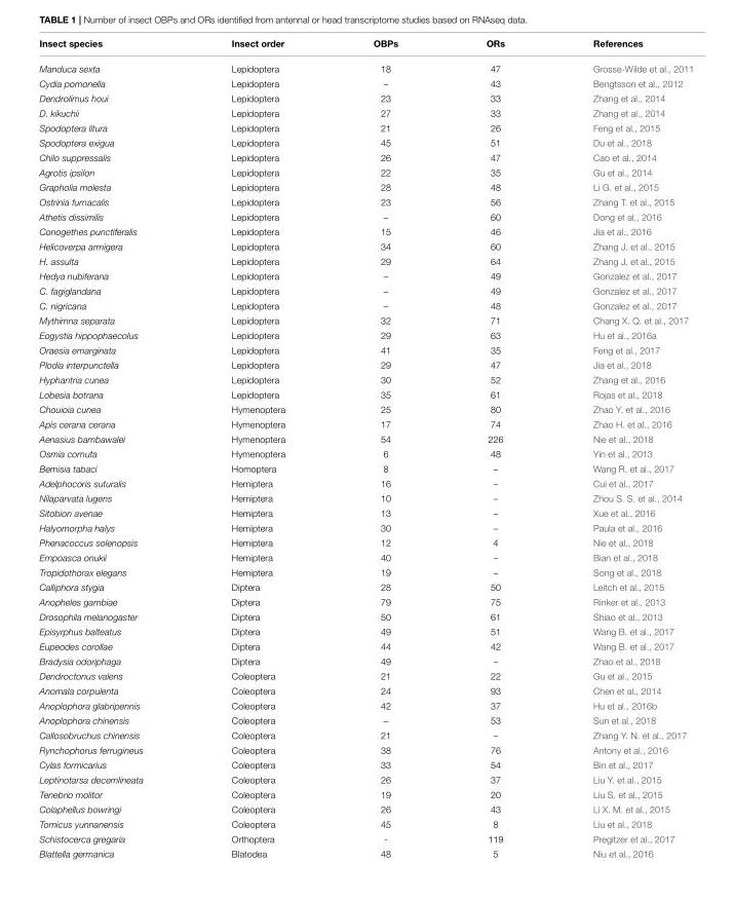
<table><thead><tr><td>Insect species</td><td>Insect order</td><td>OBPs</td><td>ORs</td><td>References</td></tr></thead><tbody><tr><td>Manduca sexta</td><td>Lepidoptera</td><td>18</td><td>47</td><td>Grosse-Wilde et al., 2011</td></tr><tr><td>Cydia pomonella</td><td>Lepidoptera</td><td>–</td><td>43</td><td>Bengtsson et al., 2012</td></tr><tr><td>Dendrolimus houi</td><td>Lepidoptera</td><td>23</td><td>33</td><td>Zhang et al., 2014</td></tr><tr><td>D. kikuchii</td><td>Lepidoptera</td><td>27</td><td>33</td><td>Zhang et al., 2014</td></tr><tr><td>Spodoptera litura</td><td>Lepidoptera</td><td>21</td><td>26</td><td>Feng et al., 2015</td></tr><tr><td>Spodoptera exigua</td><td>Lepidoptera</td><td>45</td><td>51</td><td>Du et al., 2018</td></tr><tr><td>Chilo suppressalis</td><td>Lepidoptera</td><td>26</td><td>47</td><td>Cao et al., 2014</td></tr><tr><td>Agrotis ipsilon</td><td>Lepidoptera</td><td>22</td><td>35</td><td>Gu et al., 2014</td></tr><tr><td>Grapholia molesta</td><td>Lepidoptera</td><td>28</td><td>48</td><td>Li G. et al., 2015</td></tr><tr><td>Ostrinia furnacalis</td><td>Lepidoptera</td><td>23</td><td>56</td><td>Zhang T. et al., 2015</td></tr><tr><td>Athetis dissimilis</td><td>Lepidoptera</td><td>–</td><td>60</td><td>Dong et al., 2016</td></tr><tr><td>Conogethes punctiferalis</td><td>Lepidoptera</td><td>15</td><td>46</td><td>Jia et al., 2016</td></tr><tr><td>Helicoverpa armigera</td><td>Lepidoptera</td><td>34</td><td>60</td><td>Zhang J. et al., 2015</td></tr><tr><td>H. assulta</td><td>Lepidoptera</td><td>29</td><td>64</td><td>Zhang J. et al., 2015</td></tr><tr><td>Hedya nubiferana</td><td>Lepidoptera</td><td>–</td><td>49</td><td>Gonzalez et al., 2017</td></tr><tr><td>C. fagiglandana</td><td>Lepidoptera</td><td>–</td><td>49</td><td>Gonzalez et al., 2017</td></tr><tr><td>C. nigricana</td><td>Lepidoptera</td><td>–</td><td>48</td><td>Gonzalez et al., 2017</td></tr><tr><td>Mythimna separata</td><td>Lepidoptera</td><td>32</td><td>71</td><td>Chang X. Q. et al., 2017</td></tr><tr><td>Eogystia hippophaecolus</td><td>Lepidoptera</td><td>29</td><td>63</td><td>Hu et al., 2016a</td></tr><tr><td>Oraesia emarginata</td><td>Lepidoptera</td><td>41</td><td>35</td><td>Feng et al., 2017</td></tr><tr><td>Plodia interpunctella</td><td>Lepidoptera</td><td>29</td><td>47</td><td>Jia et al., 2018</td></tr><tr><td>Hyphantria cunea</td><td>Lepidoptera</td><td>30</td><td>52</td><td>Zhang et al., 2016</td></tr><tr><td>Lobesia botrana</td><td>Lepidoptera</td><td>35</td><td>61</td><td>Rojas et al., 2018</td></tr><tr><td>Chouioia cunea</td><td>Hymenoptera</td><td>25</td><td>80</td><td>Zhao Y. et al., 2016</td></tr><tr><td>Apis cerana cerana</td><td>Hymenoptera</td><td>17</td><td>74</td><td>Zhao H. et al., 2016</td></tr><tr><td>Aenasius bambawalei</td><td>Hymenoptera</td><td>54</td><td>226</td><td>Nie et al., 2018</td></tr><tr><td>Osmia cornuta</td><td>Hymenoptera</td><td>6</td><td>48</td><td>Yin et al., 2013</td></tr><tr><td>Bemisia tabaci</td><td>Homoptera</td><td>8</td><td>–</td><td>Wang R. et al., 2017</td></tr><tr><td>Adelphocoris suturalis</td><td>Hemiptera</td><td>16</td><td>–</td><td>Cui et al., 2017</td></tr><tr><td>Nilaparvata lugens</td><td>Hemiptera</td><td>10</td><td>–</td><td>Zhou S. S. et al., 2014</td></tr><tr><td>Sitobion avenae</td><td>Hemiptera</td><td>13</td><td>–</td><td>Xue et al., 2016</td></tr><tr><td>Halyomorpha halys</td><td>Hemiptera</td><td>30</td><td>–</td><td>Paula et al., 2016</td></tr><tr><td>Phenacoccus solenopsis</td><td>Hemiptera</td><td>12</td><td>4</td><td>Nie et al., 2018</td></tr><tr><td>Empoasca onukii</td><td>Hemiptera</td><td>40</td><td>–</td><td>Bian et al., 2018</td></tr><tr><td>Tropidothorax elegans</td><td>Hemiptera</td><td>19</td><td>–</td><td>Song et al., 2018</td></tr><tr><td>Calliphora stygia</td><td>Diptera</td><td>28</td><td>50</td><td>Leitch et al., 2015</td></tr><tr><td>Anopheles gambiae</td><td>Diptera</td><td>79</td><td>75</td><td>Rinker et al., 2013</td></tr><tr><td>Drosophila melanogaster</td><td>Diptera</td><td>50</td><td>61</td><td>Shiao et al., 2013</td></tr><tr><td>Episyrphus balteatus</td><td>Diptera</td><td>49</td><td>51</td><td>Wang B. et al., 2017</td></tr><tr><td>Eupeodes corollae</td><td>Diptera</td><td>44</td><td>42</td><td>Wang B. et al., 2017</td></tr><tr><td>Bradysia odoriphaga</td><td>Diptera</td><td>49</td><td>–</td><td>Zhao et al., 2018</td></tr><tr><td>Dendroctonus valens</td><td>Coleoptera</td><td>21</td><td>22</td><td>Gu et al., 2015</td></tr><tr><td>Anomala corpulenta</td><td>Coleoptera</td><td>24</td><td>93</td><td>Chen et al., 2014</td></tr><tr><td>Anoplophora glabripennis</td><td>Coleoptera</td><td>42</td><td>37</td><td>Hu et al., 2016b</td></tr><tr><td>Anoplophora chinensis</td><td>Coleoptera</td><td>–</td><td>53</td><td>Sun et al., 2018</td></tr><tr><td>Callosobruchus chinensis</td><td>Coleoptera</td><td>21</td><td>–</td><td>Zhang Y. N. et al., 2017</td></tr><tr><td>Rynchophorus ferrugineus</td><td>Coleoptera</td><td>38</td><td>76</td><td>Antony et al., 2016</td></tr><tr><td>Cylas formicarius</td><td>Coleoptera</td><td>33</td><td>54</td><td>Bin et al., 2017</td></tr><tr><td>Leptinotarsa decemlineata</td><td>Coleoptera</td><td>26</td><td>37</td><td>Liu Y. et al., 2015</td></tr><tr><td>Tenebrio molitor</td><td>Coleoptera</td><td>19</td><td>20</td><td>Liu S. et al., 2015</td></tr><tr><td>Colaphellus bowringi</td><td>Coleoptera</td><td>26</td><td>43</td><td>Li X. M. et al., 2015</td></tr><tr><td>Tomicus yunnanensis</td><td>Coleoptera</td><td>45</td><td>8</td><td>Liu et al., 2018</td></tr><tr><td>Schistocerca gregaria</td><td>Orthoptera</td><td>-</td><td>119</td><td>Pregitzer et al., 2017</td></tr><tr><td>Blattella germanica</td><td>Blatodea</td><td>48</td><td>5</td><td>Niu et al., 2016</td></tr></tbody></table>